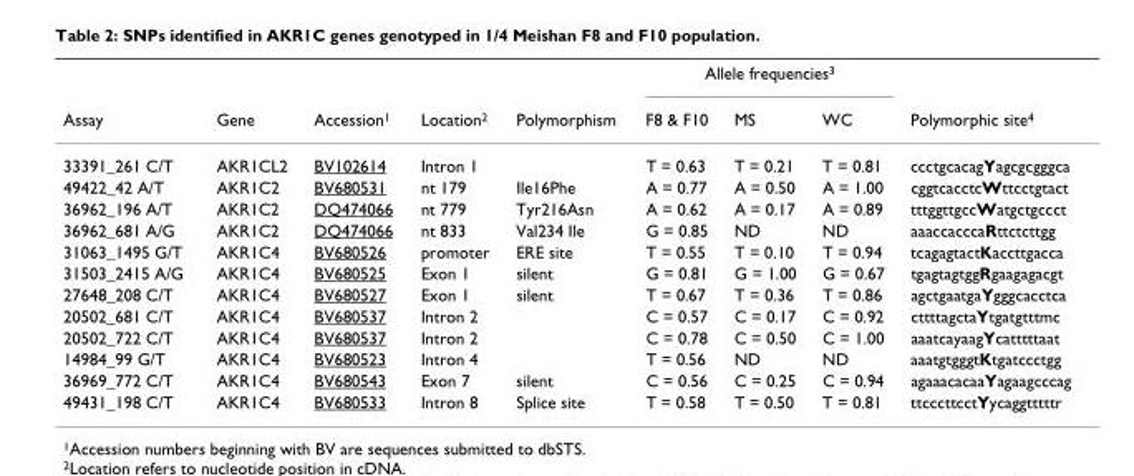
<table><thead><tr><td rowspan="2">Assay</td><td rowspan="2">Gene</td><td rowspan="2">Accession1</td><td rowspan="2">Location2</td><td rowspan="2">Polymorphism</td><td colspan="3">Allele frequencies3</td><td rowspan="2">Polymorphic site4</td></tr><tr><td>F8 &amp; F10</td><td>MS</td><td>WC</td></tr></thead><tbody><tr><td>33391_261 C/T</td><td>AKR1CL2</td><td>BV102614</td><td>Intron 1</td><td></td><td>T = 0.63</td><td>T = 0.21</td><td>T = 0.81</td><td>ccctgcacagYagcgcgggca</td></tr><tr><td>49422_42 A/T</td><td>AKR1C2</td><td>BV680531</td><td>nt 179</td><td>Ile16Phe</td><td>A = 0.77</td><td>A = 0.50</td><td>A = 1.00</td><td>cggtcacctcWttcctgtact</td></tr><tr><td>36962_196 A/T</td><td>AKR1C2</td><td>DQ474066</td><td>nt 779</td><td>Tyr216Asn</td><td>A = 0.62</td><td>A = 0.17</td><td>A = 0.89</td><td>tttggttgccWatgctgccct</td></tr><tr><td>36962_681 A/G</td><td>AKR1C2</td><td>DQ474066</td><td>nt 833</td><td>Val234 Ile</td><td>G = 0.85</td><td>ND</td><td>ND</td><td>aaaccacccaRttctcttgg</td></tr><tr><td>31063_1495 G/T</td><td>AKR1C4</td><td>BV680526</td><td>promoter</td><td>ERE site</td><td>T = 0.55</td><td>T = 0.10</td><td>T = 0.94</td><td>tcagagtactKaccttgacca</td></tr><tr><td>31503_2415 A/G</td><td>AKR1C4</td><td>BV680525</td><td>Exon 1</td><td>silent</td><td>G = 0.81</td><td>G = 1.00</td><td>G = 0.67</td><td>tgagtagtggRgaagagacgt</td></tr><tr><td>27648_208 C/T</td><td>AKR1C4</td><td>BV680527</td><td>Exon 1</td><td>silent</td><td>T = 0.67</td><td>T = 0.36</td><td>T = 0.86</td><td>agctgaatgaYgggcacctca</td></tr><tr><td>20502_681 C/T</td><td>AKR1C4</td><td>BV680537</td><td>Intron 2</td><td></td><td>C = 0.57</td><td>C = 0.17</td><td>C = 0.92</td><td>cttttagctaYtgatgtttmc</td></tr><tr><td>20502_722 C/T</td><td>AKR1C4</td><td>BV680537</td><td>Intron 2</td><td></td><td>C = 0.78</td><td>C = 0.50</td><td>C = 1.00</td><td>aaatcayaagYcatttttaat</td></tr><tr><td>14984_99 G/T</td><td>AKR1C4</td><td>BV680523</td><td>Intron 4</td><td></td><td>T = 0.56</td><td>ND</td><td>ND</td><td>aaatgtgggtKtgatccctgg</td></tr><tr><td>36969_772 C/T</td><td>AKR1C4</td><td>BV680543</td><td>Exon 7</td><td>silent</td><td>C = 0.56</td><td>C = 0.25</td><td>C = 0.94</td><td>agaaacacaaYagaagcccag</td></tr><tr><td>49431_198 C/T</td><td>AKR1C4</td><td>BV680533</td><td>Intron 8</td><td>Splice site</td><td>T = 0.58</td><td>T = 0.50</td><td>T = 0.81</td><td>ttcccttcctYycaggtttttr</td></tr></tbody></table>